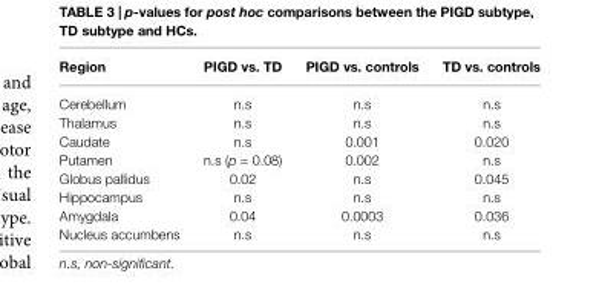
<table><thead><tr><td>Region</td><td>PIGD vs. TD</td><td>PIGD vs. controls</td><td>TD vs. controls</td></tr></thead><tbody><tr><td>Cerebellum</td><td>n.s</td><td>n.s</td><td>n.s</td></tr><tr><td>Thalamus</td><td>n.s</td><td>n.s</td><td>n.s</td></tr><tr><td>Caudate</td><td>n.s</td><td>0.001</td><td>0.020</td></tr><tr><td>Putamen</td><td>n.s (p = 0.08)</td><td>0.002</td><td>n.s</td></tr><tr><td>Globus pallidus</td><td>0.02</td><td>n.s</td><td>0.045</td></tr><tr><td>Hippocampus</td><td>n.s</td><td>n.s</td><td>n.s</td></tr><tr><td>Amygdala</td><td>0.04</td><td>0.0003</td><td>0.036</td></tr><tr><td>Nucleus accumbens</td><td>n.s</td><td>n.s</td><td>n.s</td></tr></tbody></table>